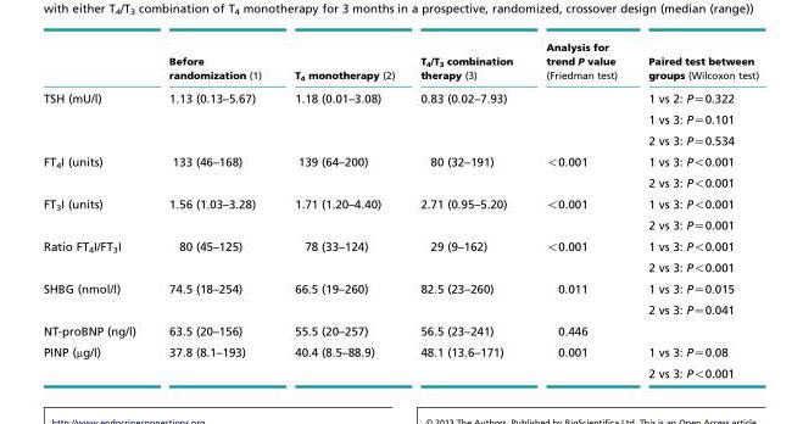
<table><thead><tr><td></td><td>Before randomization (1)</td><td>T<sub>4</sub> monotherapy (2)</td><td>T<sub>4</sub>/T<sub>3</sub> combination therapy (3)</td><td>Analysis for trend P value (Friedman test)</td><td>Paired test between groups (Wilcoxon test)</td></tr></thead><tbody><tr><td rowspan="3">TSH (mU/l)</td><td>1.13 (0.13–5.67)</td><td>1.18 (0.01–3.08)</td><td>0.83 (0.02–7.93)</td><td></td><td>1 vs 2: P=0.322</td></tr><tr><td></td><td></td><td></td><td></td><td>1 vs 3: P=0.101</td></tr><tr><td></td><td></td><td></td><td></td><td>2 vs 3: P=0.534</td></tr><tr><td rowspan="2">FT<sub>4</sub>I (units)</td><td>133 (46–168)</td><td>139 (64–200)</td><td>80 (32–191)</td><td>&lt;0.001</td><td>1 vs 3: P&lt;0.001</td></tr><tr><td></td><td></td><td></td><td></td><td>2 vs 3: P&lt;0.001</td></tr><tr><td rowspan="2">FT<sub>3</sub>I (units)</td><td>1.56 (1.03–3.28)</td><td>1.71 (1.20–4.40)</td><td>2.71 (0.95–5.20)</td><td>&lt;0.001</td><td>1 vs 3: P&lt;0.001</td></tr><tr><td></td><td></td><td></td><td></td><td>2 vs 3: P=0.001</td></tr><tr><td rowspan="2">Ratio FT<sub>4</sub>I/FT<sub>3</sub>I</td><td>80 (45–125)</td><td>78 (33–124)</td><td>29 (9–162)</td><td>&lt;0.001</td><td>1 vs 3: P&lt;0.001</td></tr><tr><td></td><td></td><td></td><td></td><td>2 vs 3: P&lt;0.001</td></tr><tr><td rowspan="2">SHBG (nmol/l)</td><td>74.5 (18–254)</td><td>66.5 (19–260)</td><td>82.5 (23–260)</td><td>0.011</td><td>1 vs 3: P=0.015</td></tr><tr><td></td><td></td><td></td><td></td><td>2 vs 3: P=0.041</td></tr><tr><td>NT-proBNP (ng/l)</td><td>63.5 (20–156)</td><td>55.5 (20–257)</td><td>56.5 (23–241)</td><td>0.446</td><td></td></tr><tr><td rowspan="2">PINP (μg/l)</td><td>37.8 (8.1–193)</td><td>40.4 (8.5–88.9)</td><td>48.1 (13.6–171)</td><td>0.001</td><td>1 vs 3: P=0.08</td></tr><tr><td></td><td></td><td></td><td></td><td>2 vs 3: P&lt;0.001</td></tr></tbody></table>